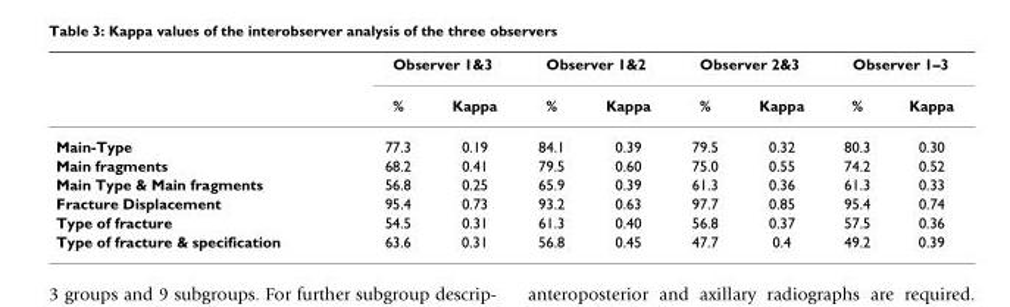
<table><thead><tr><td rowspan="2"></td><td colspan="2">Observer 1&amp;3</td><td colspan="2">Observer 1&amp;2</td><td colspan="2">Observer 2&amp;3</td><td colspan="2">Observer 1–3</td></tr><tr><td>%</td><td>Kappa</td><td>%</td><td>Kappa</td><td>%</td><td>Kappa</td><td>%</td><td>Kappa</td></tr></thead><tbody><tr><td>Main-Type</td><td>77.3</td><td>0.19</td><td>84.1</td><td>0.39</td><td>79.5</td><td>0.32</td><td>80.3</td><td>0.30</td></tr><tr><td>Main fragments</td><td>68.2</td><td>0.41</td><td>79.5</td><td>0.60</td><td>75.0</td><td>0.55</td><td>74.2</td><td>0.52</td></tr><tr><td>Main Type &amp; Main fragments</td><td>56.8</td><td>0.25</td><td>65.9</td><td>0.39</td><td>61.3</td><td>0.36</td><td>61.3</td><td>0.33</td></tr><tr><td>Fracture Displacement</td><td>95.4</td><td>0.73</td><td>93.2</td><td>0.63</td><td>97.7</td><td>0.85</td><td>95.4</td><td>0.74</td></tr><tr><td>Type of fracture</td><td>54.5</td><td>0.31</td><td>61.3</td><td>0.40</td><td>56.8</td><td>0.37</td><td>57.5</td><td>0.36</td></tr><tr><td>Type of fracture &amp; specification</td><td>63.6</td><td>0.31</td><td>56.8</td><td>0.45</td><td>47.7</td><td>0.4</td><td>49.2</td><td>0.39</td></tr></tbody></table>